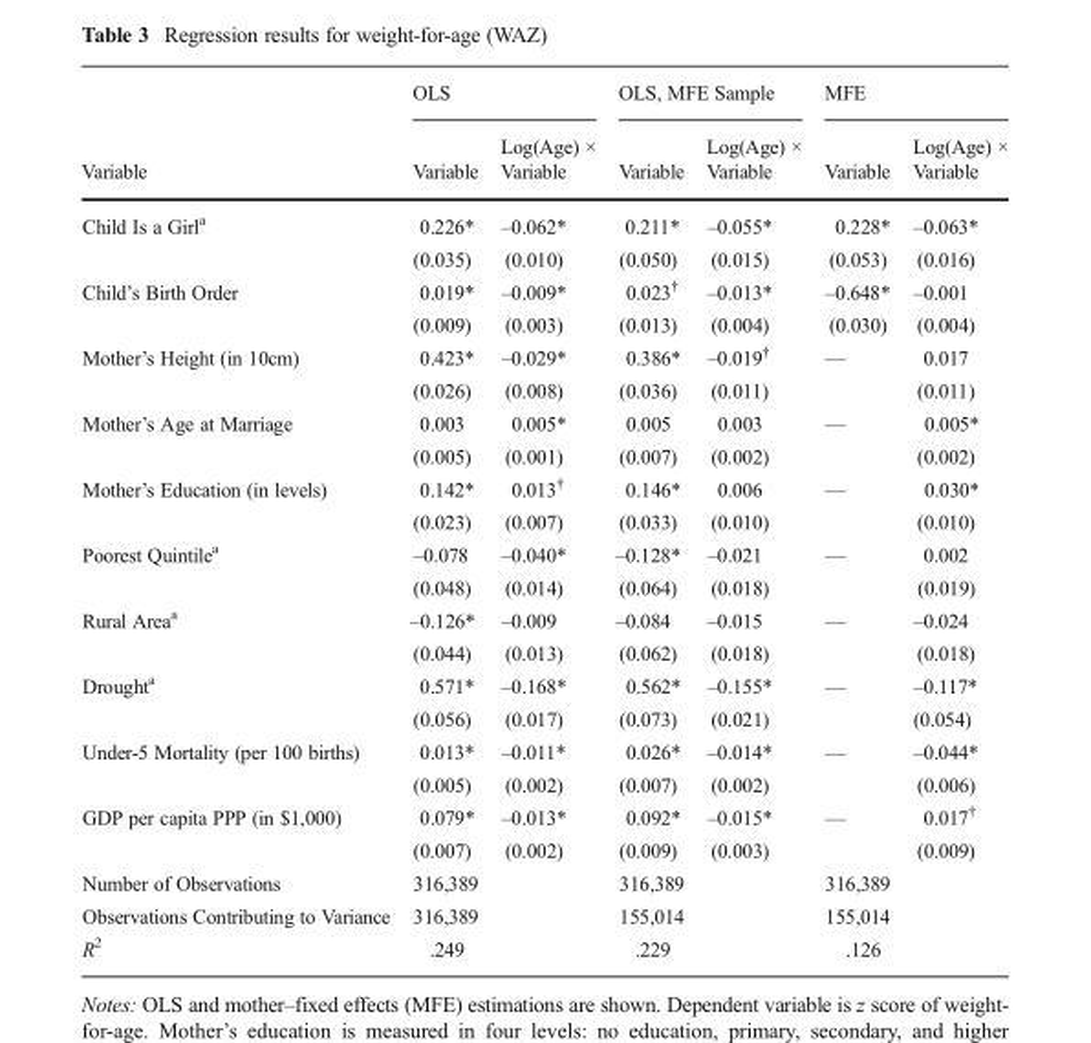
<table><thead><tr><td rowspan="2">Variable</td><td colspan="2">OLS</td><td colspan="2">OLS, MFE Sample</td><td colspan="2">MFE</td></tr><tr><td>Variable</td><td>Log(Age) × Variable</td><td>Variable</td><td>Log(Age) × Variable</td><td>Variable</td><td>Log(Age) × Variable</td></tr></thead><tbody><tr><td rowspan="2">Child Is a Girl<sup>a</sup></td><td>0.226*</td><td>–0.062*</td><td>0.211*</td><td>–0.055*</td><td>0.228*</td><td>–0.063*</td></tr><tr><td>(0.035)</td><td>(0.010)</td><td>(0.050)</td><td>(0.015)</td><td>(0.053)</td><td>(0.016)</td></tr><tr><td rowspan="2">Child’s Birth Order</td><td>0.019*</td><td>–0.009*</td><td>0.023<sup>†</sup></td><td>–0.013*</td><td>–0.648*</td><td>–0.001</td></tr><tr><td>(0.009)</td><td>(0.003)</td><td>(0.013)</td><td>(0.004)</td><td>(0.030)</td><td>(0.004)</td></tr><tr><td rowspan="2">Mother’s Height (in 10cm)</td><td>0.423*</td><td>–0.029*</td><td>0.386*</td><td>–0.019<sup>†</sup></td><td>––</td><td>0.017</td></tr><tr><td>(0.026)</td><td>(0.008)</td><td>(0.036)</td><td>(0.011)</td><td></td><td>(0.011)</td></tr><tr><td rowspan="2">Mother’s Age at Marriage</td><td>0.003</td><td>0.005*</td><td>0.005</td><td>0.003</td><td>––</td><td>0.005*</td></tr><tr><td>(0.005)</td><td>(0.001)</td><td>(0.007)</td><td>(0.002)</td><td></td><td>(0.002)</td></tr><tr><td rowspan="2">Mother’s Education (in levels)</td><td>0.142*</td><td>0.013<sup>†</sup></td><td>0.146*</td><td>0.006</td><td>––</td><td>0.030*</td></tr><tr><td>(0.023)</td><td>(0.007)</td><td>(0.033)</td><td>(0.010)</td><td></td><td>(0.010)</td></tr><tr><td rowspan="2">Poorest Quintile<sup>a</sup></td><td>–0.078</td><td>–0.040*</td><td>–0.128*</td><td>–0.021</td><td>––</td><td>0.002</td></tr><tr><td>(0.048)</td><td>(0.014)</td><td>(0.064)</td><td>(0.018)</td><td></td><td>(0.019)</td></tr><tr><td rowspan="2">Rural Area<sup>a</sup></td><td>–0.126*</td><td>–0.009</td><td>–0.084</td><td>–0.015</td><td>––</td><td>–0.024</td></tr><tr><td>(0.044)</td><td>(0.013)</td><td>(0.062)</td><td>(0.018)</td><td></td><td>(0.018)</td></tr><tr><td rowspan="2">Drought<sup>a</sup></td><td>0.571*</td><td>–0.168*</td><td>0.562*</td><td>–0.155*</td><td>––</td><td>–0.117*</td></tr><tr><td>(0.056)</td><td>(0.017)</td><td>(0.073)</td><td>(0.021)</td><td></td><td>(0.054)</td></tr><tr><td rowspan="2">Under-5 Mortality (per 100 births)</td><td>0.013*</td><td>–0.011*</td><td>0.026*</td><td>–0.014*</td><td>––</td><td>–0.044*</td></tr><tr><td>(0.005)</td><td>(0.002)</td><td>(0.007)</td><td>(0.002)</td><td></td><td>(0.006)</td></tr><tr><td rowspan="2">GDP per capita PPP (in $1,000)</td><td>0.079*</td><td>–0.013*</td><td>0.092*</td><td>–0.015*</td><td>––</td><td>0.017<sup>†</sup></td></tr><tr><td>(0.007)</td><td>(0.002)</td><td>(0.009)</td><td>(0.003)</td><td></td><td>(0.009)</td></tr><tr><td>Number of Observations</td><td colspan="2">316,389</td><td colspan="2">316,389</td><td colspan="2">316,389</td></tr><tr><td>Observations Contributing to Variance</td><td colspan="2">316,389</td><td colspan="2">155,014</td><td colspan="2">155,014</td></tr><tr><td>R<sup>2</sup></td><td colspan="2">.249</td><td colspan="2">.229</td><td colspan="2">.126</td></tr></tbody></table>